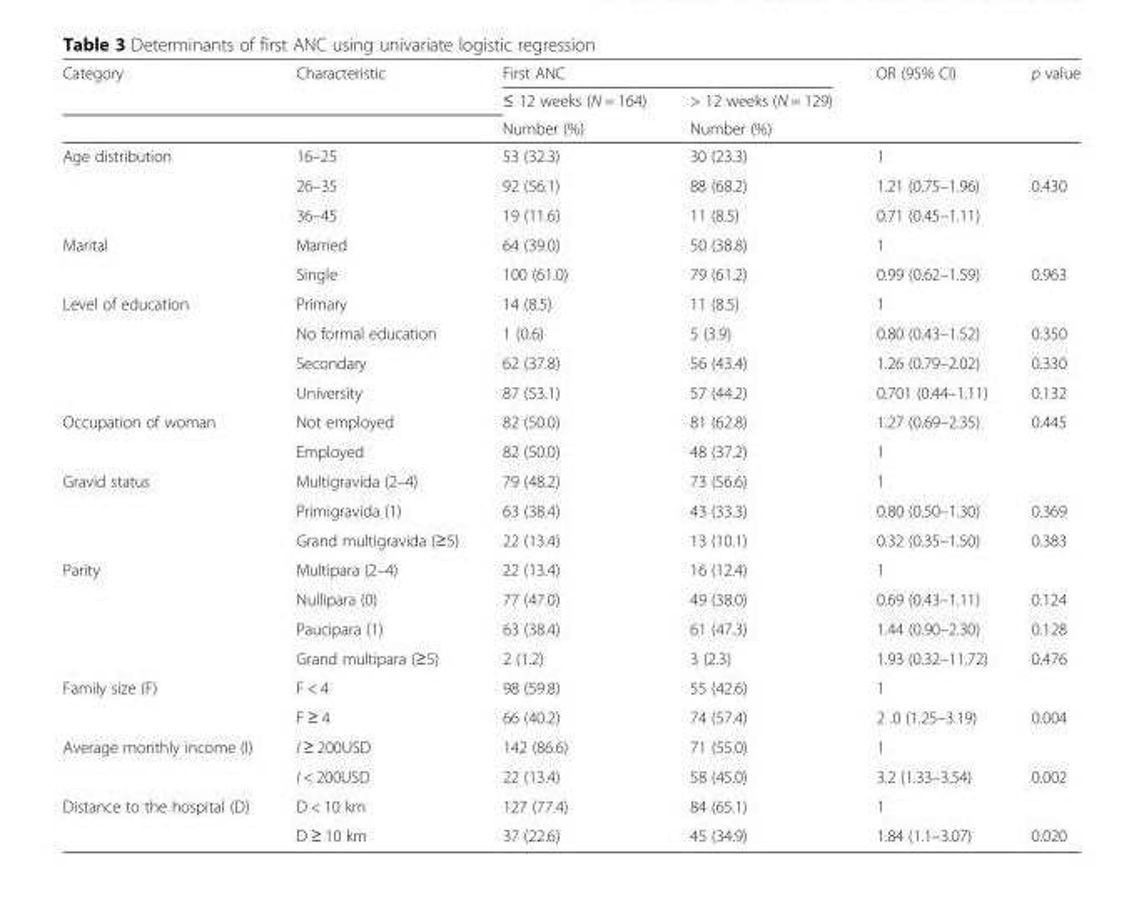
<table><thead><tr><td rowspan="3">Category</td><td rowspan="3">Characteristic</td><td colspan="2">First ANC</td><td rowspan="3">OR (95% CI)</td><td rowspan="3">p value</td></tr><tr><td rowspan="2">≤ 12 weeks (N = 164) Number (%)</td><td rowspan="2">&gt; 12 weeks (N = 129) Number (%)</td></tr><tr></tr></thead><tbody><tr><td rowspan="3">Age distribution</td><td>16–25</td><td>53 (32.3)</td><td>30 (23.3)</td><td>1</td><td></td></tr><tr><td>26–35</td><td>92 (56.1)</td><td>88 (68.2)</td><td>1.21 (0.75–1.96)</td><td>0.430</td></tr><tr><td>36–45</td><td>19 (11.6)</td><td>11 (8.5)</td><td>0.71 (0.45–1.11)</td><td></td></tr><tr><td rowspan="2">Marital</td><td>Married</td><td>64 (39.0)</td><td>50 (38.8)</td><td>1</td><td></td></tr><tr><td>Single</td><td>100 (61.0)</td><td>79 (61.2)</td><td>0.99 (0.62–1.59)</td><td>0.963</td></tr><tr><td rowspan="4">Level of education</td><td>Primary</td><td>14 (8.5)</td><td>11 (8.5)</td><td>1</td><td></td></tr><tr><td>No formal education</td><td>1 (0.6)</td><td>5 (3.9)</td><td>0.80 (0.43–1.52)</td><td>0.350</td></tr><tr><td>Secondary</td><td>62 (37.8)</td><td>56 (43.4)</td><td>1.26 (0.79–2.02)</td><td>0.330</td></tr><tr><td>University</td><td>87 (53.1)</td><td>57 (44.2)</td><td>0.701 (0.44–1.11)</td><td>0.132</td></tr><tr><td rowspan="2">Occupation of woman</td><td>Not employed</td><td>82 (50.0)</td><td>81 (62.8)</td><td>1.27 (0.69–2.35)</td><td>0.445</td></tr><tr><td>Employed</td><td>82 (50.0)</td><td>48 (37.2)</td><td>1</td><td></td></tr><tr><td rowspan="3">Gravid status</td><td>Multigravida (2–4)</td><td>79 (48.2)</td><td>73 (56.6)</td><td>1</td><td></td></tr><tr><td>Primigravida (1)</td><td>63 (38.4)</td><td>43 (33.3)</td><td>0.80 (0.50–1.30)</td><td>0.369</td></tr><tr><td>Grand multigravida (≥5)</td><td>22 (13.4)</td><td>13 (10.1)</td><td>0.32 (0.35–1.50)</td><td>0.383</td></tr><tr><td rowspan="4">Parity</td><td>Multipara (2–4)</td><td>22 (13.4)</td><td>16 (12.4)</td><td>1</td><td></td></tr><tr><td>Nullipara (0)</td><td>77 (47.0)</td><td>49 (38.0)</td><td>0.69 (0.43–1.11)</td><td>0.124</td></tr><tr><td>Paucipara (1)</td><td>63 (38.4)</td><td>61 (47.3)</td><td>1.44 (0.90–2.30)</td><td>0.128</td></tr><tr><td>Grand multipara (≥5)</td><td>2 (1.2)</td><td>3 (2.3)</td><td>1.93 (0.32–11.72)</td><td>0.476</td></tr><tr><td rowspan="2">Family size (F)</td><td>F &lt; 4</td><td>98 (59.8)</td><td>55 (42.6)</td><td>1</td><td></td></tr><tr><td>F ≥ 4</td><td>66 (40.2)</td><td>74 (57.4)</td><td>2 .0 (1.25–3.19)</td><td>0.004</td></tr><tr><td rowspan="2">Average monthly income (I)</td><td>I ≥ 200USD</td><td>142 (86.6)</td><td>71 (55.0)</td><td>1</td><td></td></tr><tr><td>I &lt; 200USD</td><td>22 (13.4)</td><td>58 (45.0)</td><td>3.2 (1.33–3.54)</td><td>0.002</td></tr><tr><td rowspan="2">Distance to the hospital (D)</td><td>D &lt; 10 km</td><td>127 (77.4)</td><td>84 (65.1)</td><td>1</td><td></td></tr><tr><td>D ≥ 10 km</td><td>37 (22.6)</td><td>45 (34.9)</td><td>1.84 (1.1–3.07)</td><td>0.020</td></tr></tbody></table>